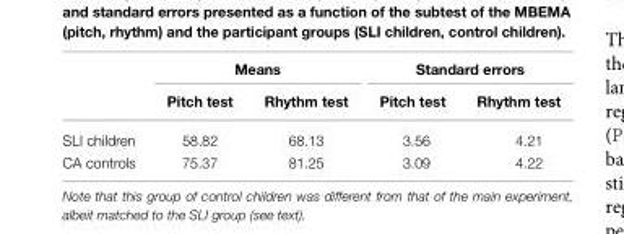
<table><thead><tr><td rowspan="2"></td><td colspan="2">Means</td><td colspan="2">Standard errors</td></tr><tr><td>Pitch test</td><td>Rhythm test</td><td>Pitch test</td><td>Rhythm test</td></tr></thead><tbody><tr><td>SLI children</td><td>58.82</td><td>68.13</td><td>3.56</td><td>4.21</td></tr><tr><td>CA controls</td><td>75.37</td><td>81.25</td><td>3.09</td><td>4.22</td></tr></tbody></table>